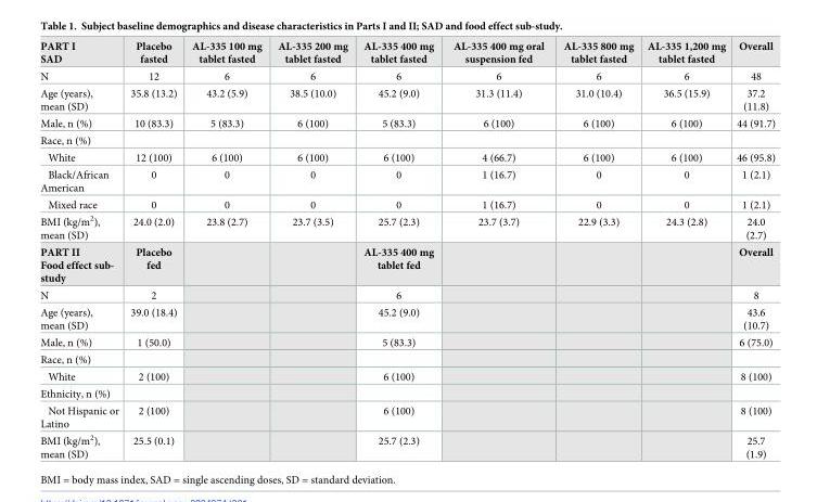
<table><tbody><tr><td>PART I SAD</td><td>Placebo fasted</td><td>AL-335 100 mg tablet fasted</td><td>AL-335 200 mg tablet fasted</td><td>AL-335 400 mg tablet fasted</td><td>AL-335 400 mg oral suspension fed</td><td>AL-335 800 mg tablet fasted</td><td>AL-335 1,200 mg tablet fasted</td><td>Overall</td></tr><tr><td>N</td><td>12</td><td>6</td><td>6</td><td>6</td><td>6</td><td>6</td><td>6</td><td>48</td></tr><tr><td>Age (years), mean (SD)</td><td>35.8 (13.2)</td><td>43.2 (5.9)</td><td>38.5 (10.0)</td><td>45.2 (9.0)</td><td>31.3 (11.4)</td><td>31.0 (10.4)</td><td>36.5 (15.9)</td><td>37.2 (11.8)</td></tr><tr><td>Male, n (%)</td><td>10 (83.3)</td><td>5 (83.3)</td><td>6 (100)</td><td>5 (83.3)</td><td>6 (100)</td><td>6 (100)</td><td>6 (100)</td><td>44 (91.7)</td></tr><tr><td colspan="9">Race, n (%)</td></tr><tr><td>White</td><td>12 (100)</td><td>6 (100)</td><td>6 (100)</td><td>6 (100)</td><td>4 (66.7)</td><td>6 (100)</td><td>6 (100)</td><td>46 (95.8)</td></tr><tr><td>Black/African American</td><td>0</td><td>0</td><td>0</td><td>0</td><td>1 (16.7)</td><td>0</td><td>0</td><td>1 (2.1)</td></tr><tr><td>Mixed race</td><td>0</td><td>0</td><td>0</td><td>0</td><td>1 (16.7)</td><td>0</td><td>0</td><td>1 (2.1)</td></tr><tr><td>BMI (kg/m<sup>2</sup>), mean (SD)</td><td>24.0 (2.0)</td><td>23.8 (2.7)</td><td>23.7 (3.5)</td><td>25.7 (2.3)</td><td>23.7 (3.7)</td><td>22.9 (3.3)</td><td>24.3 (2.8)</td><td>24.0 (2.7)</td></tr><tr><td>PART II Food effect sub- study</td><td>Placebo fed</td><td></td><td></td><td>AL-335 400 mg tablet fed</td><td></td><td></td><td></td><td>Overall</td></tr><tr><td>N</td><td>2</td><td></td><td></td><td>6</td><td></td><td></td><td></td><td>8</td></tr><tr><td>Age (years), mean (SD)</td><td>39.0 (18.4)</td><td></td><td></td><td>45.2 (9.0)</td><td></td><td></td><td></td><td>43.6 (10.7)</td></tr><tr><td>Male, n (%)</td><td>1 (50.0)</td><td></td><td></td><td>5 (83.3)</td><td></td><td></td><td></td><td>6 (75.0)</td></tr><tr><td colspan="9">Race, n (%)</td></tr><tr><td>White</td><td>2 (100)</td><td></td><td></td><td>6 (100)</td><td></td><td></td><td></td><td>8 (100)</td></tr><tr><td colspan="9">Ethnicity, n (%)</td></tr><tr><td>Not Hispanic or Latino</td><td>2 (100)</td><td></td><td></td><td>6 (100)</td><td></td><td></td><td></td><td>8 (100)</td></tr><tr><td>BMI (kg/m<sup>2</sup>), mean (SD)</td><td>25.5 (0.1)</td><td></td><td></td><td>25.7 (2.3)</td><td></td><td></td><td></td><td>25.7 (1.9)</td></tr></tbody></table>